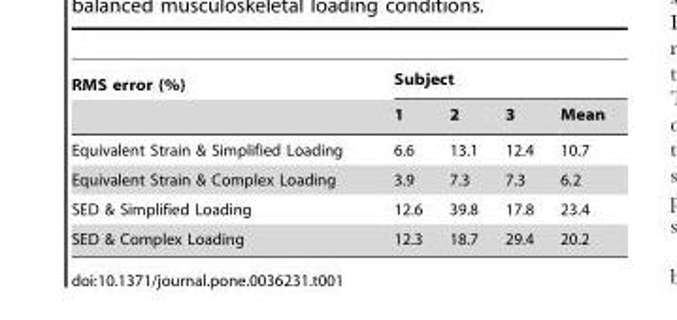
<table><thead><tr><td rowspan="2">RMS error (%)</td><td colspan="4">Subject</td></tr><tr><td>1</td><td>2</td><td>3</td><td>Mean</td></tr></thead><tbody><tr><td>Equivalent Strain &amp; Simplified Loading</td><td>6.6</td><td>13.1</td><td>12.4</td><td>10.7</td></tr><tr><td>Equivalent Strain &amp; Complex Loading</td><td>3.9</td><td>7.3</td><td>7.3</td><td>6.2</td></tr><tr><td>SED &amp; Simplified Loading</td><td>12.6</td><td>39.8</td><td>17.8</td><td>23.4</td></tr><tr><td>SED &amp; Complex Loading</td><td>12.3</td><td>18.7</td><td>29.4</td><td>20.2</td></tr></tbody></table>